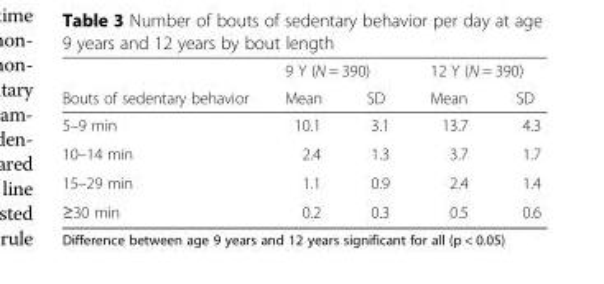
<table><thead><tr><td rowspan="2">Bouts of sedentary behavior</td><td colspan="2">9 Y (N = 390)</td><td colspan="2">12 Y (N = 390)</td></tr><tr><td>Mean</td><td>SD</td><td>Mean</td><td>SD</td></tr></thead><tbody><tr><td>5–9 min</td><td>10.1</td><td>3.1</td><td>13.7</td><td>4.3</td></tr><tr><td>10–14 min</td><td>2.4</td><td>1.3</td><td>3.7</td><td>1.7</td></tr><tr><td>15–29 min</td><td>1.1</td><td>0.9</td><td>2.4</td><td>1.4</td></tr><tr><td>≥30 min</td><td>0.2</td><td>0.3</td><td>0.5</td><td>0.6</td></tr></tbody></table>